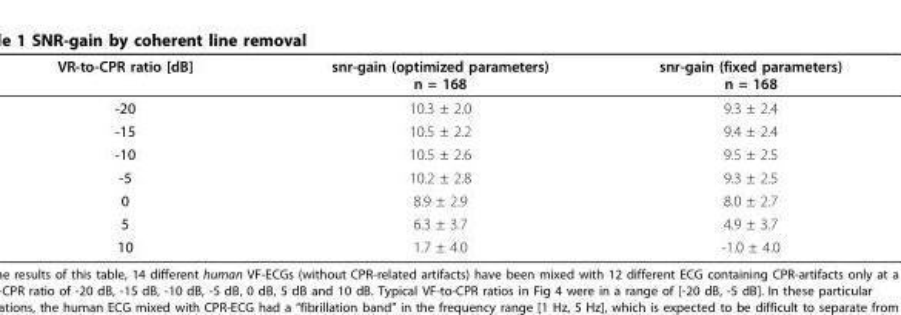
<table><thead><tr><td>VR-to-CPR ratio [dB]</td><td>snr-gain (optimized parameters) n = 168</td><td>snr-gain (fixed parameters) n = 168</td></tr></thead><tbody><tr><td>-20</td><td>10.3 ± 2.0</td><td>9.3 ± 2.4</td></tr><tr><td>-15</td><td>10.5 ± 2.2</td><td>9.4 ± 2.4</td></tr><tr><td>-10</td><td>10.5 ± 2.6</td><td>9.5 ± 2.5</td></tr><tr><td>-5</td><td>10.2 ± 2.8</td><td>9.3 ± 2.5</td></tr><tr><td>0</td><td>8.9 ± 2.9</td><td>8.0 ± 2.7</td></tr><tr><td>5</td><td>6.3 ± 3.7</td><td>4.9 ± 3.7</td></tr><tr><td>10</td><td>1.7 ± 4.0</td><td>-1.0 ± 4.0</td></tr></tbody></table>